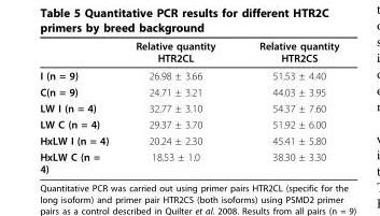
<table><thead><tr><td></td><td>Relative quantity HTR2CL</td><td>Relative quantity HTR2CS</td></tr></thead><tbody><tr><td>I (n = 9)</td><td>26.98 ± 3.66</td><td>51.53 ± 4.40</td></tr><tr><td>C(n = 9)</td><td>24.71 ± 3.21</td><td>44.03 ± 3.95</td></tr><tr><td>LW I (n = 4)</td><td>32.77 ± 3.10</td><td>54.37 ± 7.60</td></tr><tr><td>LW C (n = 4)</td><td>29.37 ± 3.70</td><td>51.92 ± 6.00</td></tr><tr><td>HxLW I (n = 4)</td><td>20.24 ± 2.30</td><td>45.41 ± 5.80</td></tr><tr><td>HxLW C (n = 4)</td><td>18.53 ± 1.0</td><td>38.30 ± 3.30</td></tr></tbody></table>